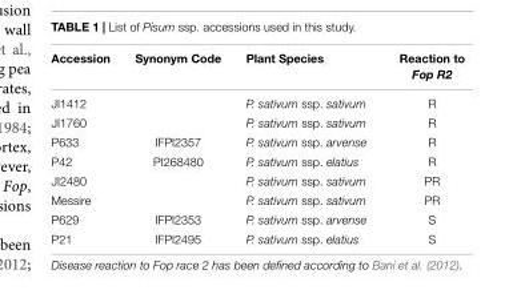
<table><thead><tr><td>Accession</td><td>Synonym Code</td><td>Plant Species</td><td>Reaction to Fop R2</td></tr></thead><tbody><tr><td>JI1412</td><td></td><td>P. sativum ssp. sativum</td><td>R</td></tr><tr><td>JI1760</td><td></td><td>P. sativum ssp. sativum</td><td>R</td></tr><tr><td>P633</td><td>IFPI2357</td><td>P. sativum ssp. arvense</td><td>R</td></tr><tr><td>P42</td><td>PI268480</td><td>P. sativum ssp. elatius</td><td>R</td></tr><tr><td>JI2480</td><td></td><td>P. sativum ssp. sativum</td><td>PR</td></tr><tr><td>Messire</td><td></td><td>P. sativum ssp. sativum</td><td>PR</td></tr><tr><td>P629</td><td>IFPI2353</td><td>P. sativum ssp. arvense</td><td>S</td></tr><tr><td>P21</td><td>IFPI2495</td><td>P. sativum ssp. elatius</td><td>S</td></tr></tbody></table>